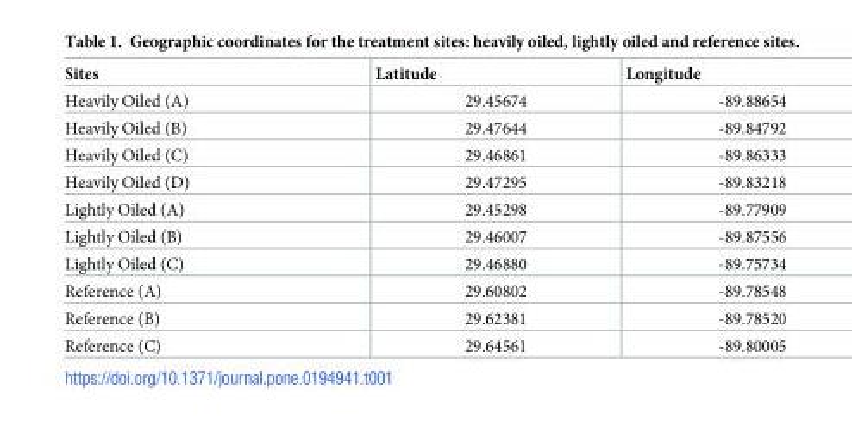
<table><thead><tr><td>Sites</td><td>Latitude</td><td>Longitude</td></tr></thead><tbody><tr><td>Heavily Oiled (A)</td><td>29.45674</td><td>-89.88654</td></tr><tr><td>Heavily Oiled (B)</td><td>29.47644</td><td>-89.84792</td></tr><tr><td>Heavily Oiled (C)</td><td>29.46861</td><td>-89.86333</td></tr><tr><td>Heavily Oiled (D)</td><td>29.47295</td><td>-89.83218</td></tr><tr><td>Lightly Oiled (A)</td><td>29.45298</td><td>-89.77909</td></tr><tr><td>Lightly Oiled (B)</td><td>29.46007</td><td>-89.87556</td></tr><tr><td>Lightly Oiled (C)</td><td>29.46880</td><td>-89.75734</td></tr><tr><td>Reference (A)</td><td>29.60802</td><td>-89.78548</td></tr><tr><td>Reference (B)</td><td>29.62381</td><td>-89.78520</td></tr><tr><td>Reference (C)</td><td>29.64561</td><td>-89.80005</td></tr></tbody></table>